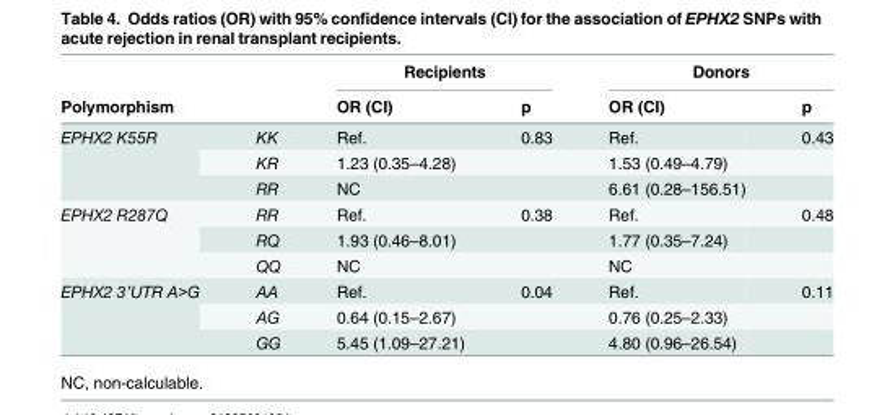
<table><thead><tr><td></td><td></td><td colspan="2">Recipients</td><td colspan="2">Donors</td></tr><tr><td colspan="2">Polymorphism</td><td>OR (CI)</td><td>p</td><td>OR (CI)</td><td>p</td></tr></thead><tbody><tr><td rowspan="3">EPHX2 K55R</td><td>KK</td><td>Ref.</td><td>0.83</td><td>Ref.</td><td>0.43</td></tr><tr><td>KR</td><td>1.23 (0.35–4.28)</td><td></td><td>1.53 (0.49–4.79)</td><td></td></tr><tr><td>RR</td><td>NC</td><td></td><td>6.61 (0.28–156.51)</td><td></td></tr><tr><td rowspan="3">EPHX2 R287Q</td><td>RR</td><td>Ref.</td><td>0.38</td><td>Ref.</td><td>0.48</td></tr><tr><td>RQ</td><td>1.93 (0.46–8.01)</td><td></td><td>1.77 (0.35–7.24)</td><td></td></tr><tr><td>QQ</td><td>NC</td><td></td><td>NC</td><td></td></tr><tr><td rowspan="3">EPHX2 3’UTR A&gt;G</td><td>AA</td><td>Ref.</td><td>0.04</td><td>Ref.</td><td>0.11</td></tr><tr><td>AG</td><td>0.64 (0.15–2.67)</td><td></td><td>0.76 (0.25–2.33)</td><td></td></tr><tr><td>GG</td><td>5.45 (1.09–27.21)</td><td></td><td>4.80 (0.96–26.54)</td><td></td></tr></tbody></table>